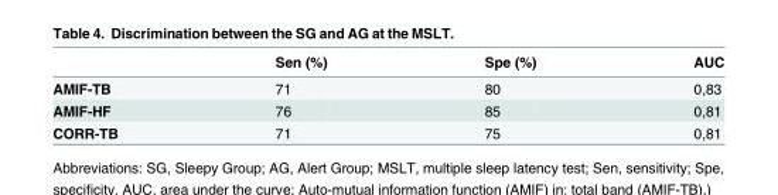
<table><thead><tr><td></td><td>Sen (%)</td><td>Spe (%)</td><td>AUC</td></tr></thead><tbody><tr><td>AMIF-TB</td><td>71</td><td>80</td><td>0,83</td></tr><tr><td>AMIF-HF</td><td>76</td><td>85</td><td>0,81</td></tr><tr><td>CORR-TB</td><td>71</td><td>75</td><td>0,81</td></tr></tbody></table>